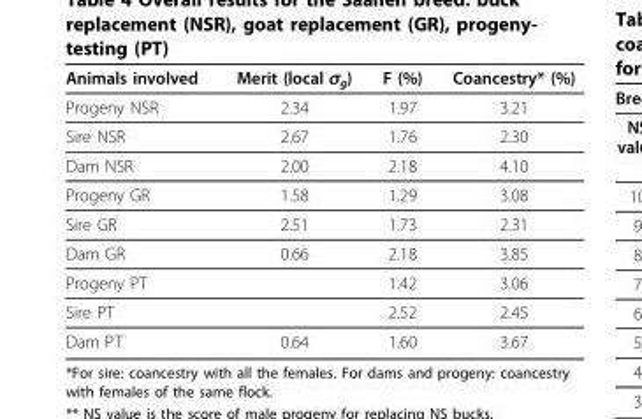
<table><thead><tr><td>Animals involved</td><td>Merit (local σ<sub>g</sub>)</td><td>F (%)</td><td>Coancestry* (%)</td></tr></thead><tbody><tr><td>Progeny NSR</td><td>2.34</td><td>1.97</td><td>3.21</td></tr><tr><td>Sire NSR</td><td>2.67</td><td>1.76</td><td>2.30</td></tr><tr><td>Dam NSR</td><td>2.00</td><td>2.18</td><td>4.10</td></tr><tr><td>Progeny GR</td><td>1.58</td><td>1.29</td><td>3.08</td></tr><tr><td>Sire GR</td><td>2.51</td><td>1.73</td><td>2.31</td></tr><tr><td>Dam GR</td><td>0.66</td><td>2.18</td><td>3.85</td></tr><tr><td>Progeny PT</td><td></td><td>1.42</td><td>3.06</td></tr><tr><td>Sire PT</td><td></td><td>2.52</td><td>2.45</td></tr><tr><td>Dam PT</td><td>0.64</td><td>1.60</td><td>3.67</td></tr></tbody></table>